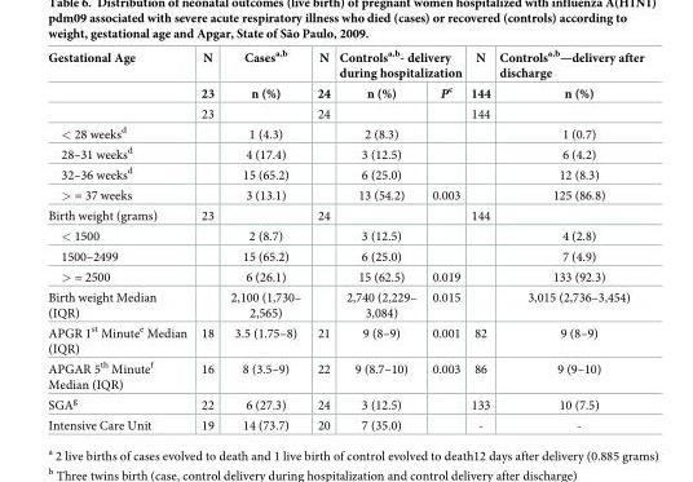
<table><thead><tr><td rowspan="2">Gestational Age</td><td rowspan="2">N 23</td><td rowspan="2">Cases<sup>a,b</sup> n (%)</td><td rowspan="2">N 24</td><td colspan="2">Controls<sup>a,b</sup>- delivery during hospitalization</td><td rowspan="2">N 144</td><td rowspan="2">Controls<sup>a,b</sup>—delivery after discharge n (%)</td></tr><tr><td>n (%)</td><td>P<sup>c</sup></td></tr></thead><tbody><tr><td></td><td>23</td><td></td><td>24</td><td></td><td></td><td>144</td><td></td></tr><tr><td>&lt; 28 weeks<sup>d</sup></td><td></td><td>1 (4.3)</td><td></td><td>2 (8.3)</td><td></td><td></td><td>1 (0.7)</td></tr><tr><td>28–31 weeks<sup>d</sup></td><td></td><td>4 (17.4)</td><td></td><td>3 (12.5)</td><td></td><td></td><td>6 (4.2)</td></tr><tr><td>32–36 weeks<sup>d</sup></td><td></td><td>15 (65.2)</td><td></td><td>6 (25.0)</td><td></td><td></td><td>12 (8.3)</td></tr><tr><td>&gt; = 37 weeks</td><td></td><td>3 (13.1)</td><td></td><td>13 (54.2)</td><td>0.003</td><td></td><td>125 (86.8)</td></tr><tr><td>Birth weight (grams)</td><td>23</td><td></td><td>24</td><td></td><td></td><td>144</td><td></td></tr><tr><td>&lt; 1500</td><td></td><td>2 (8.7)</td><td></td><td>3 (12.5)</td><td></td><td></td><td>4 (2.8)</td></tr><tr><td>1500–2499</td><td></td><td>15 (65.2)</td><td></td><td>6 (25.0)</td><td></td><td></td><td>7 (4.9)</td></tr><tr><td>&gt; = 2500</td><td></td><td>6 (26.1)</td><td></td><td>15 (62.5)</td><td>0.019</td><td></td><td>133 (92.3)</td></tr><tr><td>Birth weight Median (IQR)</td><td></td><td>2,100 (1,730– 2,565)</td><td></td><td>2,740 (2,229– 3,084)</td><td>0.015</td><td></td><td>3,015 (2,736–3,454)</td></tr><tr><td>APGR 1<sup>st</sup> Minute<sup>e</sup> Median (IQR)</td><td>18</td><td>3.5 (1.75–8)</td><td>21</td><td>9 (8–9)</td><td>0.001</td><td>82</td><td>9 (8–9)</td></tr><tr><td>APGAR 5<sup>th</sup> Minute<sup>f</sup> Median (IQR)</td><td>16</td><td>8 (3.5–9)</td><td>22</td><td>9 (8.7–10)</td><td>0.003</td><td>86</td><td>9 (9–10)</td></tr><tr><td>SGA<sup>g</sup></td><td>22</td><td>6 (27.3)</td><td>24</td><td>3 (12.5)</td><td></td><td>133</td><td>10 (7.5)</td></tr><tr><td>Intensive Care Unit</td><td>19</td><td>14 (73.7)</td><td>20</td><td>7 (35.0)</td><td></td><td>-</td><td>-</td></tr></tbody></table>